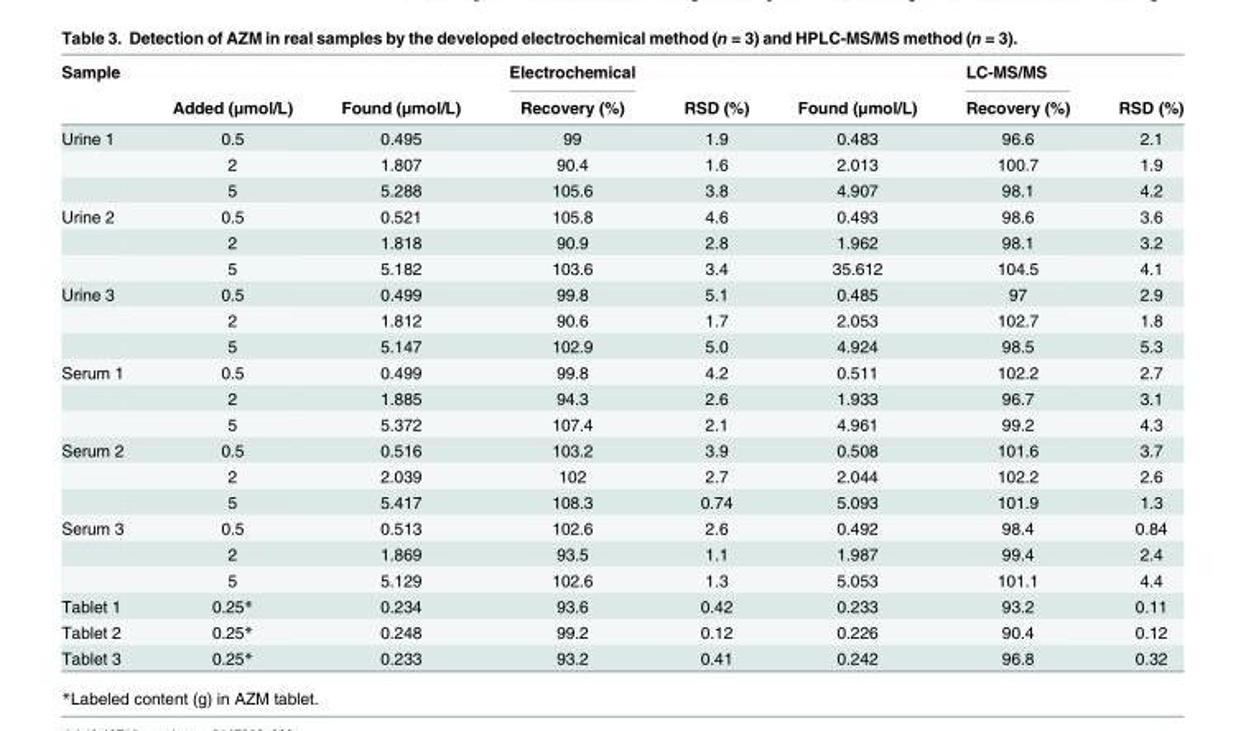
<table><thead><tr><td rowspan="2">Sample</td><td rowspan="2">Added (μmol/L)</td><td rowspan="2">Found (μmol/L)</td><td rowspan="2">Electrochemical Recovery (%)</td><td rowspan="2">RSD (%)</td><td rowspan="2">Found (μmol/L)</td><td rowspan="2">LC-MS/MS Recovery (%)</td><td rowspan="2">RSD (%)</td></tr><tr></tr></thead><tbody><tr><td rowspan="3">Urine 1</td><td>0.5</td><td>0.495</td><td>99</td><td>1.9</td><td>0.483</td><td>96.6</td><td>2.1</td></tr><tr><td>2</td><td>1.807</td><td>90.4</td><td>1.6</td><td>2.013</td><td>100.7</td><td>1.9</td></tr><tr><td>5</td><td>5.288</td><td>105.6</td><td>3.8</td><td>4.907</td><td>98.1</td><td>4.2</td></tr><tr><td rowspan="3">Urine 2</td><td>0.5</td><td>0.521</td><td>105.8</td><td>4.6</td><td>0.493</td><td>98.6</td><td>3.6</td></tr><tr><td>2</td><td>1.818</td><td>90.9</td><td>2.8</td><td>1.962</td><td>98.1</td><td>3.2</td></tr><tr><td>5</td><td>5.182</td><td>103.6</td><td>3.4</td><td>35.612</td><td>104.5</td><td>4.1</td></tr><tr><td rowspan="3">Urine 3</td><td>0.5</td><td>0.499</td><td>99.8</td><td>5.1</td><td>0.485</td><td>97</td><td>2.9</td></tr><tr><td>2</td><td>1.812</td><td>90.6</td><td>1.7</td><td>2.053</td><td>102.7</td><td>1.8</td></tr><tr><td>5</td><td>5.147</td><td>102.9</td><td>5.0</td><td>4.924</td><td>98.5</td><td>5.3</td></tr><tr><td rowspan="3">Serum 1</td><td>0.5</td><td>0.499</td><td>99.8</td><td>4.2</td><td>0.511</td><td>102.2</td><td>2.7</td></tr><tr><td>2</td><td>1.885</td><td>94.3</td><td>2.6</td><td>1.933</td><td>96.7</td><td>3.1</td></tr><tr><td>5</td><td>5.372</td><td>107.4</td><td>2.1</td><td>4.961</td><td>99.2</td><td>4.3</td></tr><tr><td rowspan="3">Serum 2</td><td>0.5</td><td>0.516</td><td>103.2</td><td>3.9</td><td>0.508</td><td>101.6</td><td>3.7</td></tr><tr><td>2</td><td>2.039</td><td>102</td><td>2.7</td><td>2.044</td><td>102.2</td><td>2.6</td></tr><tr><td>5</td><td>5.417</td><td>108.3</td><td>0.74</td><td>5.093</td><td>101.9</td><td>1.3</td></tr><tr><td rowspan="3">Serum 3</td><td>0.5</td><td>0.513</td><td>102.6</td><td>2.6</td><td>0.492</td><td>98.4</td><td>0.84</td></tr><tr><td>2</td><td>1.869</td><td>93.5</td><td>1.1</td><td>1.987</td><td>99.4</td><td>2.4</td></tr><tr><td>5</td><td>5.129</td><td>102.6</td><td>1.3</td><td>5.053</td><td>101.1</td><td>4.4</td></tr><tr><td>Tablet 1</td><td>0.25*</td><td>0.234</td><td>93.6</td><td>0.42</td><td>0.233</td><td>93.2</td><td>0.11</td></tr><tr><td>Tablet 2</td><td>0.25*</td><td>0.248</td><td>99.2</td><td>0.12</td><td>0.226</td><td>90.4</td><td>0.12</td></tr><tr><td>Tablet 3</td><td>0.25*</td><td>0.233</td><td>93.2</td><td>0.41</td><td>0.242</td><td>96.8</td><td>0.32</td></tr></tbody></table>